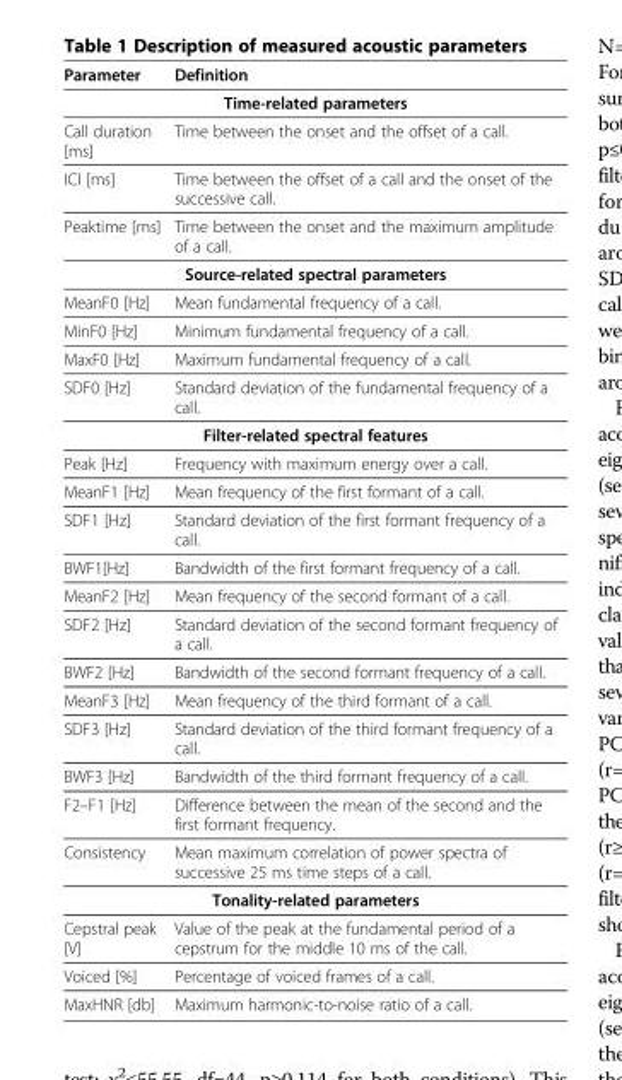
<table><thead><tr><td>Parameter</td><td>Definition</td></tr></thead><tbody><tr><td colspan="2">Time-related parameters</td></tr><tr><td>Call duration [ms]</td><td>Time between the onset and the offset of a call.</td></tr><tr><td>ICI [ms]</td><td>Time between the offset of a call and the onset of the successive call.</td></tr><tr><td>Peaktime [ms]</td><td>Time between the onset and the maximum amplitude of a call.</td></tr><tr><td colspan="2">Source-related spectral parameters</td></tr><tr><td>MeanF0 [Hz]</td><td>Mean fundamental frequency of a call.</td></tr><tr><td>MinF0 [Hz]</td><td>Minimum fundamental frequency of a call.</td></tr><tr><td>MaxF0 [Hz]</td><td>Maximum fundamental frequency of a call.</td></tr><tr><td>SDF0 [Hz]</td><td>Standard deviation of the fundamental frequency of a call.</td></tr><tr><td colspan="2">Filter-related spectral features</td></tr><tr><td>Peak [Hz]</td><td>Frequency with maximum energy over a call.</td></tr><tr><td>MeanF1 [Hz]</td><td>Mean frequency of the first formant of a call.</td></tr><tr><td>SDF1 [Hz]</td><td>Standard deviation of the first formant frequency of a call.</td></tr><tr><td>BWF1[Hz]</td><td>Bandwidth of the first formant frequency of a call.</td></tr><tr><td>MeanF2 [Hz]</td><td>Mean frequency of the second formant of a call.</td></tr><tr><td>SDF2 [Hz]</td><td>Standard deviation of the second formant frequency of a call.</td></tr><tr><td>BWF2 [Hz]</td><td>Bandwidth of the second formant frequency of a call.</td></tr><tr><td>MeanF3 [Hz]</td><td>Mean frequency of the third formant of a call.</td></tr><tr><td>SDF3 [Hz]</td><td>Standard deviation of the third formant frequency of a call.</td></tr><tr><td>BWF3 [Hz]</td><td>Bandwidth of the third formant frequency of a call.</td></tr><tr><td>F2–F1 [Hz]</td><td>Difference between the mean of the second and the first formant frequency.</td></tr><tr><td>Consistency</td><td>Mean maximum correlation of power spectra of successive 25 ms time steps of a call.</td></tr><tr><td colspan="2">Tonality-related parameters</td></tr><tr><td>Cepstral peak [V]</td><td>Value of the peak at the fundamental period of a cepstrum for the middle 10 ms of the call.</td></tr><tr><td>Voiced [%]</td><td>Percentage of voiced frames of a call.</td></tr><tr><td>MaxHNR [db]</td><td>Maximum harmonic-to-noise ratio of a call.</td></tr></tbody></table>